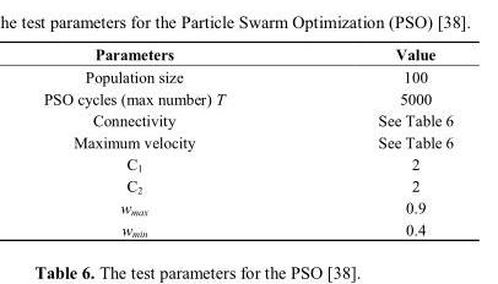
<table><thead><tr><td>Parameters</td><td>Value</td></tr></thead><tbody><tr><td>Population size</td><td>100</td></tr><tr><td>PSO cycles (max number) T</td><td>5000</td></tr><tr><td>Connectivity</td><td>See Table 6</td></tr><tr><td>Maximum velocity</td><td>See Table 6</td></tr><tr><td>C<sub>1</sub></td><td>2</td></tr><tr><td>C<sub>2</sub></td><td>2</td></tr><tr><td>w<sub>max</sub></td><td>0.9</td></tr><tr><td>w<sub>min</sub></td><td>0.4</td></tr></tbody></table>